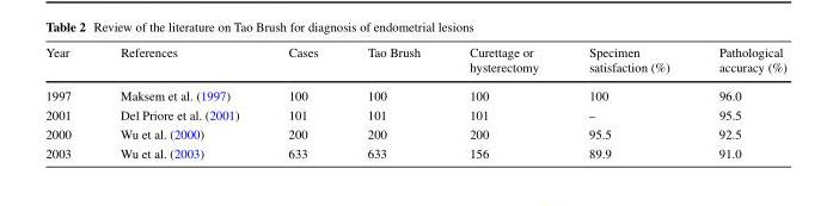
<table><thead><tr><td>Year</td><td>References</td><td>Cases</td><td>Tao Brush</td><td>Curettage or hysterectomy</td><td>Specimen satisfaction (%)</td><td>Pathological accuracy (%)</td></tr></thead><tbody><tr><td>1997</td><td>Maksem et al. (1997)</td><td>100</td><td>100</td><td>100</td><td>100</td><td>96.0</td></tr><tr><td>2001</td><td>Del Priore et al. (2001)</td><td>101</td><td>101</td><td>101</td><td>–</td><td>95.5</td></tr><tr><td>2000</td><td>Wu et al. (2000)</td><td>200</td><td>200</td><td>200</td><td>95.5</td><td>92.5</td></tr><tr><td>2003</td><td>Wu et al. (2003)</td><td>633</td><td>633</td><td>156</td><td>89.9</td><td>91.0</td></tr></tbody></table>